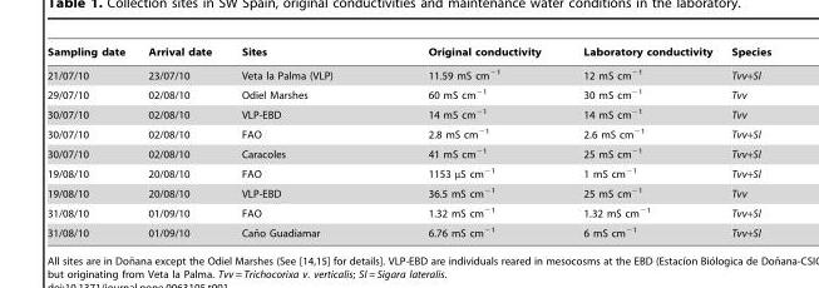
<table><thead><tr><td>Sampling date</td><td>Arrival date</td><td>Sites</td><td>Original conductivity</td><td>Laboratory conductivity</td><td>Species</td></tr></thead><tbody><tr><td>21/07/10</td><td>23/07/10</td><td>Veta la Palma (VLP)</td><td>11.59 mS cm<sup>−1</sup></td><td>12 mS cm<sup>−1</sup></td><td>Tvv+Sl</td></tr><tr><td>29/07/10</td><td>02/08/10</td><td>Odiel Marshes</td><td>60 mS cm<sup>−1</sup></td><td>30 mS cm<sup>−1</sup></td><td>Tvv</td></tr><tr><td>30/07/10</td><td>02/08/10</td><td>VLP-EBD</td><td>14 mS cm<sup>−1</sup></td><td>14 mS cm<sup>−1</sup></td><td>Tvv</td></tr><tr><td>30/07/10</td><td>02/08/10</td><td>FAO</td><td>2.8 mS cm<sup>−1</sup></td><td>2.6 mS cm<sup>−1</sup></td><td>Tvv+Sl</td></tr><tr><td>30/07/10</td><td>02/08/10</td><td>Caracoles</td><td>41 mS cm<sup>−1</sup></td><td>25 mS cm<sup>−1</sup></td><td>Tvv+Sl</td></tr><tr><td>19/08/10</td><td>20/08/10</td><td>FAO</td><td>1153 µS cm<sup>−1</sup></td><td>1 mS cm<sup>−1</sup></td><td>Tvv+Sl</td></tr><tr><td>19/08/10</td><td>20/08/10</td><td>VLP-EBD</td><td>36.5 mS cm<sup>−1</sup></td><td>25 mS cm<sup>−1</sup></td><td>Tvv</td></tr><tr><td>31/08/10</td><td>01/09/10</td><td>FAO</td><td>1.32 mS cm<sup>−1</sup></td><td>1.32 mS cm<sup>−1</sup></td><td>Tvv+Sl</td></tr><tr><td>31/08/10</td><td>01/09/10</td><td>Can˜o Guadiamar</td><td>6.76 mS cm<sup>−1</sup></td><td>6 mS cm<sup>−1</sup></td><td>Tvv+Sl</td></tr></tbody></table>